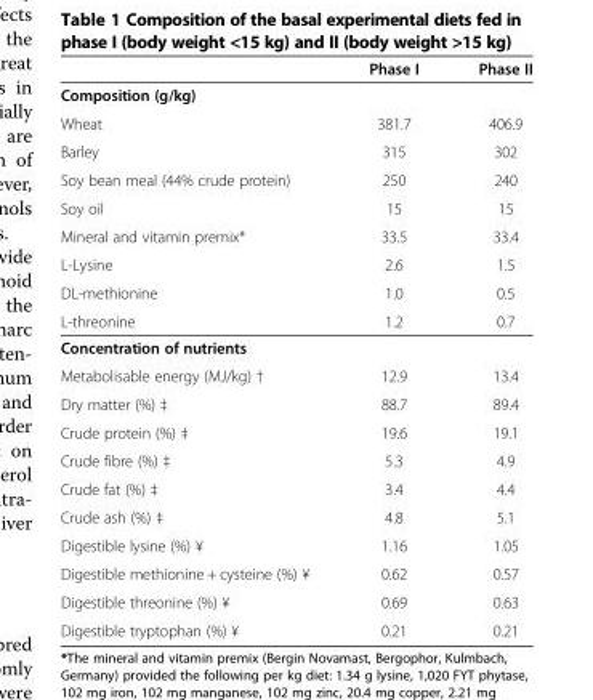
<table><thead><tr><td></td><td>Phase I</td><td>Phase II</td></tr></thead><tbody><tr><td colspan="3">Composition (g/kg)</td></tr><tr><td>Wheat</td><td>381.7</td><td>406.9</td></tr><tr><td>Barley</td><td>315</td><td>302</td></tr><tr><td>Soy bean meal (44% crude protein)</td><td>250</td><td>240</td></tr><tr><td>Soy oil</td><td>15</td><td>15</td></tr><tr><td>Mineral and vitamin premix*</td><td>33.5</td><td>33.4</td></tr><tr><td>L-Lysine</td><td>2.6</td><td>1.5</td></tr><tr><td>DL-methionine</td><td>1.0</td><td>0.5</td></tr><tr><td>L-threonine</td><td>1.2</td><td>0.7</td></tr><tr><td colspan="3">Concentration of nutrients</td></tr><tr><td>Metabolisable energy (MJ/kg) †</td><td>12.9</td><td>13.4</td></tr><tr><td>Dry matter (%) ‡</td><td>88.7</td><td>89.4</td></tr><tr><td>Crude protein (%) ‡</td><td>19.6</td><td>19.1</td></tr><tr><td>Crude fibre (%) ‡</td><td>5.3</td><td>4.9</td></tr><tr><td>Crude fat (%) ‡</td><td>3.4</td><td>4.4</td></tr><tr><td>Crude ash (%) ‡</td><td>4.8</td><td>5.1</td></tr><tr><td>Digestible lysine (%) ¥</td><td>1.16</td><td>1.05</td></tr><tr><td>Digestible methionine + cysteine (%) ¥</td><td>0.62</td><td>0.57</td></tr><tr><td>Digestible threonine (%) ¥</td><td>0.69</td><td>0.63</td></tr><tr><td>Digestible tryptophan (%) ¥</td><td>0.21</td><td>0.21</td></tr></tbody></table>